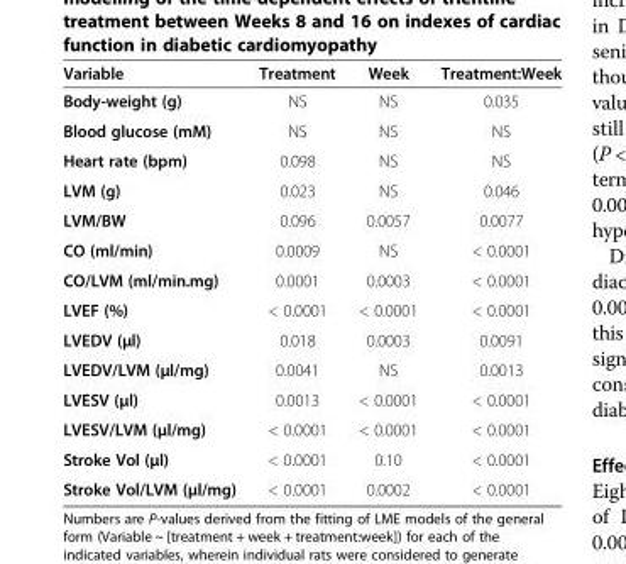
<table><thead><tr><td>Variable</td><td>Treatment</td><td>Week</td><td>Treatment:Week</td></tr></thead><tbody><tr><td>Body-weight (g)</td><td>NS</td><td>NS</td><td>0.035</td></tr><tr><td>Blood glucose (mM)</td><td>NS</td><td>NS</td><td>NS</td></tr><tr><td>Heart rate (bpm)</td><td>0.098</td><td>NS</td><td>NS</td></tr><tr><td>LVM (g)</td><td>0.023</td><td>NS</td><td>0.046</td></tr><tr><td>LVM/BW</td><td>0.096</td><td>0.0057</td><td>0.0077</td></tr><tr><td>CO (ml/min)</td><td>0.0009</td><td>NS</td><td>&lt; 0.0001</td></tr><tr><td>CO/LVM (ml/min.mg)</td><td>0.0001</td><td>0.0003</td><td>&lt; 0.0001</td></tr><tr><td>LVEF (%)</td><td>&lt; 0.0001</td><td>&lt; 0.0001</td><td>&lt; 0.0001</td></tr><tr><td>LVEDV (μl)</td><td>0.018</td><td>0.0003</td><td>0.0091</td></tr><tr><td>LVEDV/LVM (μl/mg)</td><td>0.0041</td><td>NS</td><td>0.0013</td></tr><tr><td>LVESV (μl)</td><td>0.0013</td><td>&lt; 0.0001</td><td>&lt; 0.0001</td></tr><tr><td>LVESV/LVM (μl/mg)</td><td>&lt; 0.0001</td><td>&lt; 0.0001</td><td>&lt; 0.0001</td></tr><tr><td>Stroke Vol (μl)</td><td>&lt; 0.0001</td><td>0.10</td><td>&lt; 0.0001</td></tr><tr><td>Stroke Vol/LVM (μl/mg)</td><td>&lt; 0.0001</td><td>0.0002</td><td>&lt; 0.0001</td></tr></tbody></table>